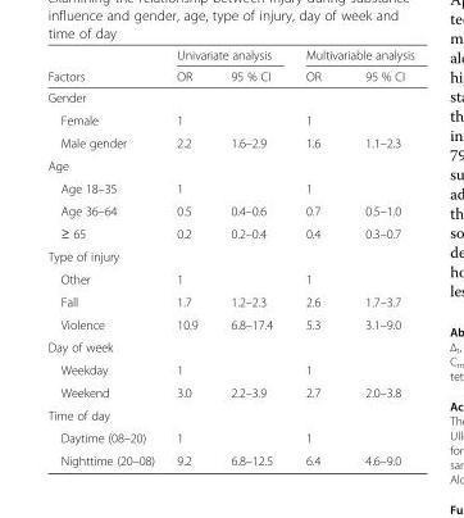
<table><thead><tr><td rowspan="2">Factors</td><td colspan="2">Univariate analysis</td><td colspan="2">Multivariable analysis</td></tr><tr><td>OR</td><td>95 % CI</td><td>OR</td><td>95 % CI</td></tr></thead><tbody><tr><td colspan="5">Gender</td></tr><tr><td>Female</td><td>1</td><td></td><td>1</td><td></td></tr><tr><td>Male gender</td><td>2.2</td><td>1.6–2.9</td><td>1.6</td><td>1.1–2.3</td></tr><tr><td colspan="5">Age</td></tr><tr><td>Age 18–35</td><td>1</td><td></td><td>1</td><td></td></tr><tr><td>Age 36–64</td><td>0.5</td><td>0.4–0.6</td><td>0.7</td><td>0.5–1.0</td></tr><tr><td>≥ 65</td><td>0.2</td><td>0.2–0.4</td><td>0.4</td><td>0.3–0.7</td></tr><tr><td colspan="5">Type of injury</td></tr><tr><td>Other</td><td>1</td><td></td><td>1</td><td></td></tr><tr><td>Fall</td><td>1.7</td><td>1.2–2.3</td><td>2.6</td><td>1.7–3.7</td></tr><tr><td>Violence</td><td>10.9</td><td>6.8–17.4</td><td>5.3</td><td>3.1–9.0</td></tr><tr><td colspan="5">Day of week</td></tr><tr><td>Weekday</td><td>1</td><td></td><td>1</td><td></td></tr><tr><td>Weekend</td><td>3.0</td><td>2.2–3.9</td><td>2.7</td><td>2.0–3.8</td></tr><tr><td colspan="5">Time of day</td></tr><tr><td>Daytime (08–20)</td><td>1</td><td></td><td>1</td><td></td></tr><tr><td>Nighttime (20–08)</td><td>9.2</td><td>6.8–12.5</td><td>6.4</td><td>4.6–9.0</td></tr></tbody></table>